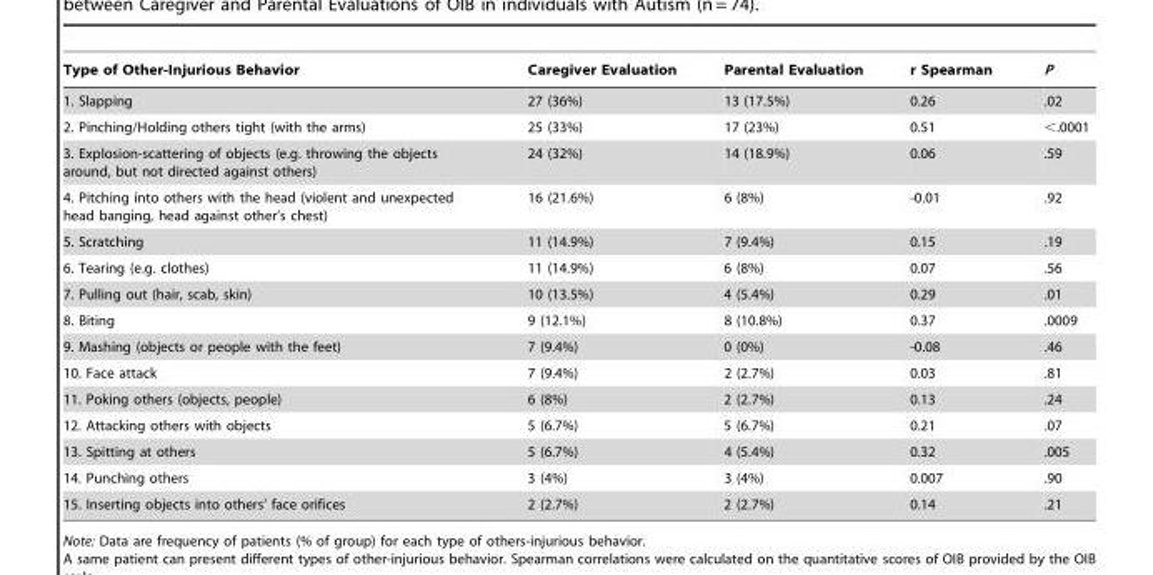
<table><thead><tr><td>Type of Other-Injurious Behavior</td><td>Caregiver Evaluation</td><td>Parental Evaluation</td><td>r Spearman</td><td>P</td></tr></thead><tbody><tr><td>1. Slapping</td><td>27 (36%)</td><td>13 (17.5%)</td><td>0.26</td><td>.02</td></tr><tr><td>2. Pinching/Holding others tight (with the arms)</td><td>25 (33%)</td><td>17 (23%)</td><td>0.51</td><td>&lt;.0001</td></tr><tr><td>3. Explosion-scattering of objects (e.g. throwing the objects around, but not directed against others)</td><td>24 (32%)</td><td>14 (18.9%)</td><td>0.06</td><td>.59</td></tr><tr><td>4. Pitching into others with the head (violent and unexpected head banging, head against other’s chest)</td><td>16 (21.6%)</td><td>6 (8%)</td><td>-0.01</td><td>.92</td></tr><tr><td>5. Scratching</td><td>11 (14.9%)</td><td>7 (9.4%)</td><td>0.15</td><td>.19</td></tr><tr><td>6. Tearing (e.g. clothes)</td><td>11 (14.9%)</td><td>6 (8%)</td><td>0.07</td><td>.56</td></tr><tr><td>7. Pulling out (hair, scab, skin)</td><td>10 (13.5%)</td><td>4 (5.4%)</td><td>0.29</td><td>.01</td></tr><tr><td>8. Biting</td><td>9 (12.1%)</td><td>8 (10.8%)</td><td>0.37</td><td>.0009</td></tr><tr><td>9. Mashing (objects or people with the feet)</td><td>7 (9.4%)</td><td>0 (0%)</td><td>-0.08</td><td>.46</td></tr><tr><td>10. Face attack</td><td>7 (9.4%)</td><td>2 (2.7%)</td><td>0.03</td><td>.81</td></tr><tr><td>11. Poking others (objects, people)</td><td>6 (8%)</td><td>2 (2.7%)</td><td>0.13</td><td>.24</td></tr><tr><td>12. Attacking others with objects</td><td>5 (6.7%)</td><td>5 (6.7%)</td><td>0.21</td><td>.07</td></tr><tr><td>13. Spitting at others</td><td>5 (6.7%)</td><td>4 (5.4%)</td><td>0.32</td><td>.005</td></tr><tr><td>14. Punching others</td><td>3 (4%)</td><td>3 (4%)</td><td>0.007</td><td>.90</td></tr><tr><td>15. Inserting objects into others’ face orifices</td><td>2 (2.7%)</td><td>2 (2.7%)</td><td>0.14</td><td>.21</td></tr></tbody></table>